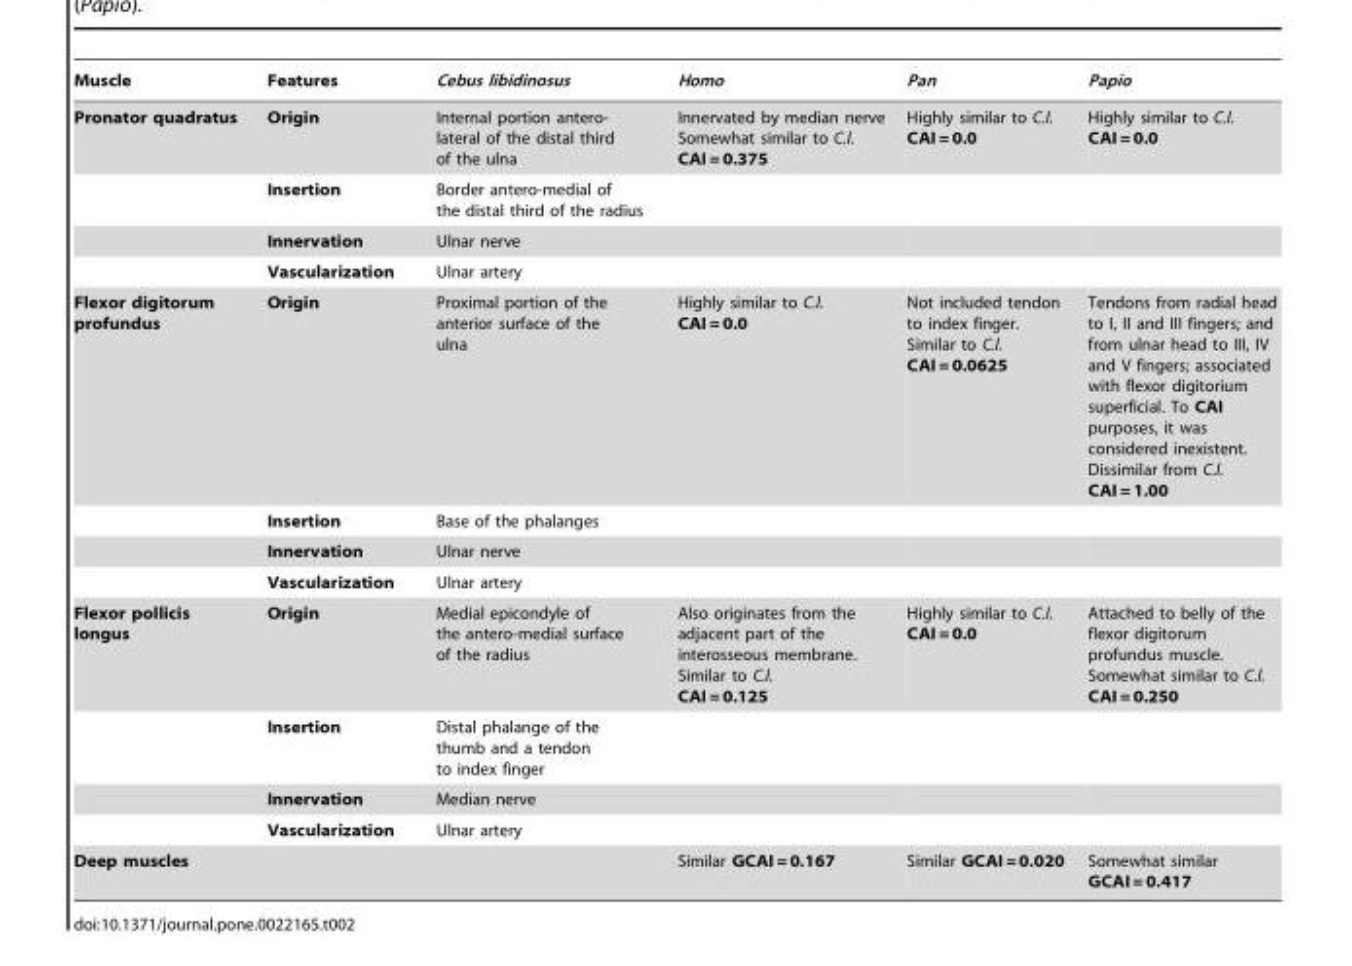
<table><thead><tr><td>Muscle</td><td>Features</td><td>Cebus libidinosus</td><td>Homo</td><td>Pan</td><td>Papio</td></tr></thead><tbody><tr><td rowspan="4">Pronator quadratus</td><td>Origin</td><td>Internal portion antero- lateral of the distal third of the ulna</td><td>Innervated by median nerve Somewhat similar to C.l. CAI = 0.375</td><td>Highly similar to C.l. CAI = 0.0</td><td>Highly similar to C.l. CAI = 0.0</td></tr><tr><td>Insertion</td><td>Border antero-medial of the distal third of the radius</td><td></td><td></td><td></td></tr><tr><td>Innervation</td><td>Ulnar nerve</td><td></td><td></td><td></td></tr><tr><td>Vascularization</td><td>Ulnar artery</td><td></td><td></td><td></td></tr><tr><td rowspan="4">Flexor digitorum profundus</td><td>Origin</td><td>Proximal portion of the anterior surface of the ulna</td><td>Highly similar to C.l. CAI = 0.0</td><td>Not included tendon to index finger. Similar to C.l. CAI = 0.0625</td><td>Tendons from radial head to I, II and III fingers; and from ulnar head to III, IV and V fingers; associated with flexor digitorium superficial. To CAI purposes, it was considered inexistent. Dissimilar from C.l. CAI = 1.00</td></tr><tr><td>Insertion</td><td>Base of the phalanges</td><td></td><td></td><td></td></tr><tr><td>Innervation</td><td>Ulnar nerve</td><td></td><td></td><td></td></tr><tr><td>Vascularization</td><td>Ulnar artery</td><td></td><td></td><td></td></tr><tr><td rowspan="4">Flexor pollicis longus</td><td>Origin</td><td>Medial epicondyle of the antero-medial surface of the radius</td><td>Also originates from the adjacent part of the interosseous membrane. Similar to C.l. CAI = 0.125</td><td>Highly similar to C.l. CAI = 0.0</td><td>Attached to belly of the flexor digitorum profundus muscle. Somewhat similar to C.l. CAI = 0.250</td></tr><tr><td>Insertion</td><td>Distal phalange of the thumb and a tendon to index finger</td><td></td><td></td><td></td></tr><tr><td>Innervation</td><td>Median nerve</td><td></td><td></td><td></td></tr><tr><td>Vascularization</td><td>Ulnar artery</td><td></td><td></td><td></td></tr><tr><td colspan="3">Deep muscles</td><td>Similar GCAI = 0.167</td><td>Similar GCAI = 0.020</td><td>Somewhat similar GCAI = 0.417</td></tr></tbody></table>